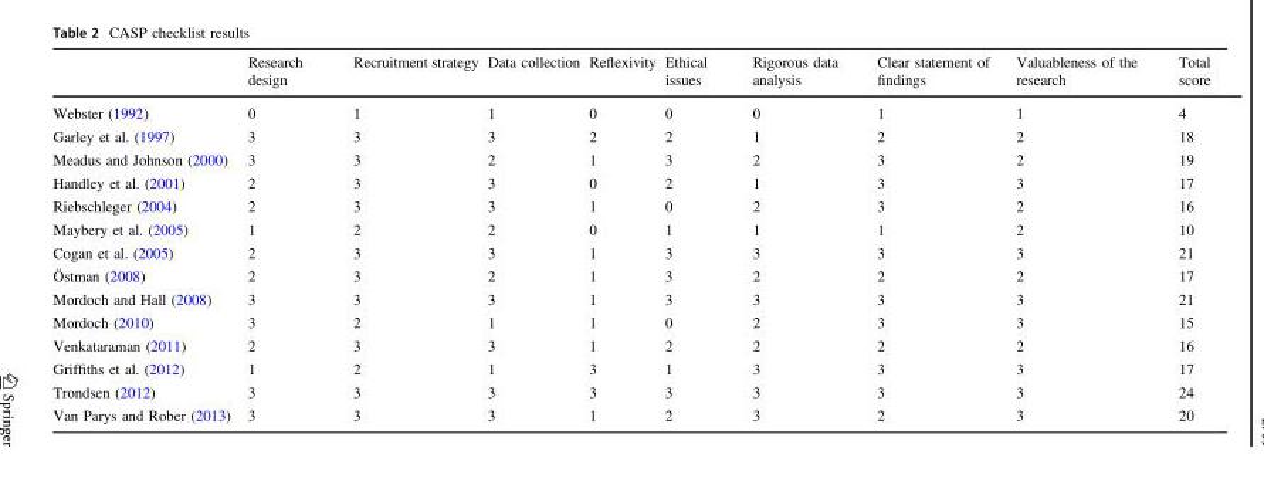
<table><thead><tr><td></td><td>Research design</td><td>Recruitment strategy</td><td>Data collection</td><td>Reflexivity</td><td>Ethical issues</td><td>Rigorous data analysis</td><td>Clear statement of findings</td><td>Valuableness of the research</td><td>Total score</td></tr></thead><tbody><tr><td>Webster (1992)</td><td>0</td><td>1</td><td>1</td><td>0</td><td>0</td><td>0</td><td>1</td><td>1</td><td>4</td></tr><tr><td>Garley et al. (1997)</td><td>3</td><td>3</td><td>3</td><td>2</td><td>2</td><td>1</td><td>2</td><td>2</td><td>18</td></tr><tr><td>Meadus and Johnson (2000)</td><td>3</td><td>3</td><td>2</td><td>1</td><td>3</td><td>2</td><td>3</td><td>2</td><td>19</td></tr><tr><td>Handley et al. (2001)</td><td>2</td><td>3</td><td>3</td><td>0</td><td>2</td><td>1</td><td>3</td><td>3</td><td>17</td></tr><tr><td>Riebschleger (2004)</td><td>2</td><td>3</td><td>3</td><td>1</td><td>0</td><td>2</td><td>3</td><td>2</td><td>16</td></tr><tr><td>Maybery et al. (2005)</td><td>1</td><td>2</td><td>2</td><td>0</td><td>1</td><td>1</td><td>1</td><td>2</td><td>10</td></tr><tr><td>Cogan et al. (2005)</td><td>2</td><td>3</td><td>3</td><td>1</td><td>3</td><td>3</td><td>3</td><td>3</td><td>21</td></tr><tr><td>Östman (2008)</td><td>2</td><td>3</td><td>2</td><td>1</td><td>3</td><td>2</td><td>2</td><td>2</td><td>17</td></tr><tr><td>Mordoch and Hall (2008)</td><td>3</td><td>3</td><td>3</td><td>1</td><td>3</td><td>3</td><td>3</td><td>3</td><td>21</td></tr><tr><td>Mordoch (2010)</td><td>3</td><td>2</td><td>1</td><td>1</td><td>0</td><td>2</td><td>3</td><td>3</td><td>15</td></tr><tr><td>Venkataraman (2011)</td><td>2</td><td>3</td><td>3</td><td>1</td><td>2</td><td>2</td><td>2</td><td>2</td><td>16</td></tr><tr><td>Griffiths et al. (2012)</td><td>1</td><td>2</td><td>1</td><td>3</td><td>1</td><td>3</td><td>3</td><td>3</td><td>17</td></tr><tr><td>Trondsen (2012)</td><td>3</td><td>3</td><td>3</td><td>3</td><td>3</td><td>3</td><td>3</td><td>3</td><td>24</td></tr><tr><td>Van Parys and Rober (2013)</td><td>3</td><td>3</td><td>3</td><td>1</td><td>2</td><td>3</td><td>2</td><td>3</td><td>20</td></tr></tbody></table>